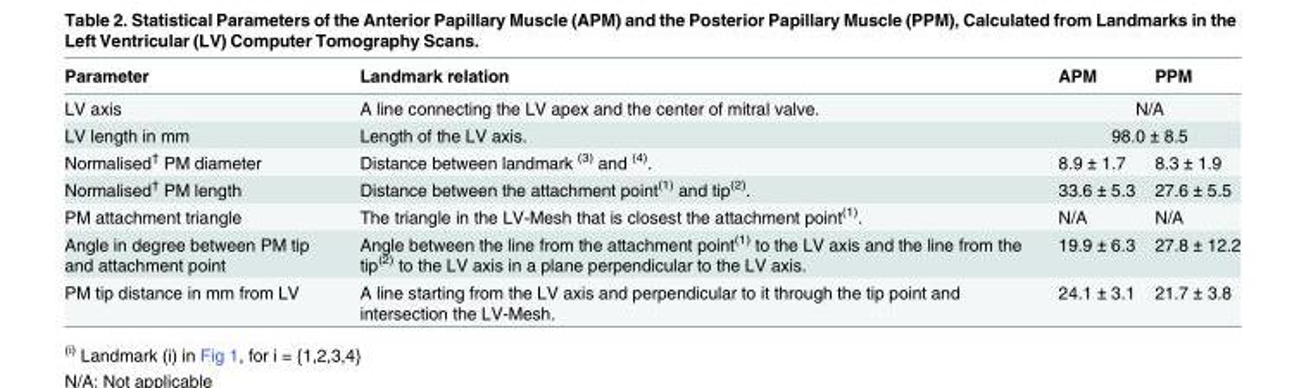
<table><thead><tr><td>Parameter</td><td>Landmark relation</td><td>APM</td><td>PPM</td></tr></thead><tbody><tr><td>LV axis</td><td>A line connecting the LV apex and the center of mitral valve.</td><td colspan="2">N/A</td></tr><tr><td>LV length in mm</td><td>Length of the LV axis.</td><td colspan="2">98.0 ± 8.5</td></tr><tr><td>Normalised<sup>†</sup> PM diameter</td><td>Distance between landmark <sup>(3)</sup> and <sup>(4)</sup>.</td><td>8.9 ± 1.7</td><td>8.3 ± 1.9</td></tr><tr><td>Normalised<sup>†</sup> PM length</td><td>Distance between the attachment point<sup>(1)</sup> and tip<sup>(2)</sup>.</td><td>33.6 ± 5.3</td><td>27.6 ± 5.5</td></tr><tr><td>PM attachment triangle</td><td>The triangle in the LV-Mesh that is closest the attachment point<sup>(1)</sup>.</td><td>N/A</td><td>N/A</td></tr><tr><td>Angle in degree between PM tip and attachment point</td><td>Angle between the line from the attachment point<sup>(1)</sup> to the LV axis and the line from the tip<sup>(2)</sup> to the LV axis in a plane perpendicular to the LV axis.</td><td>19.9 ± 6.3</td><td>27.8 ± 12.2</td></tr><tr><td>PM tip distance in mm from LV</td><td>A line starting from the LV axis and perpendicular to it through the tip point and intersection the LV-Mesh.</td><td>24.1 ± 3.1</td><td>21.7 ± 3.8</td></tr></tbody></table>